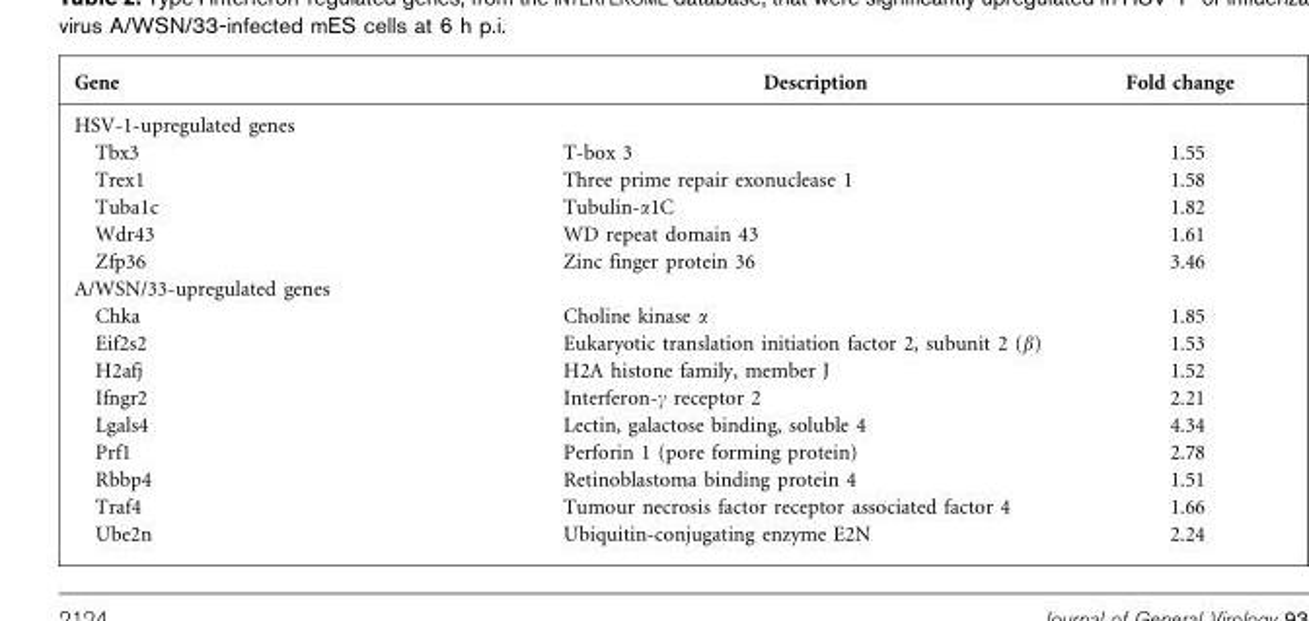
<table><thead><tr><td>Gene</td><td>Description</td><td>Fold change</td></tr></thead><tbody><tr><td colspan="3">HSV-1-upregulated genes</td></tr><tr><td>Tbx3</td><td>T-box 3</td><td>1.55</td></tr><tr><td>Trex1</td><td>Three prime repair exonuclease 1</td><td>1.58</td></tr><tr><td>Tuba1c</td><td>Tubulin-α1C</td><td>1.82</td></tr><tr><td>Wdr43</td><td>WD repeat domain 43</td><td>1.61</td></tr><tr><td>Zfp36</td><td>Zinc finger protein 36</td><td>3.46</td></tr><tr><td colspan="3">A/WSN/33-upregulated genes</td></tr><tr><td>Chka</td><td>Choline kinase α</td><td>1.85</td></tr><tr><td>Eif2s2</td><td>Eukaryotic translation initiation factor 2, subunit 2 (β)</td><td>1.53</td></tr><tr><td>H2afj</td><td>H2A histone family, member J</td><td>1.52</td></tr><tr><td>Ifngr2</td><td>Interferon-γ receptor 2</td><td>2.21</td></tr><tr><td>Lgals4</td><td>Lectin, galactose binding, soluble 4</td><td>4.34</td></tr><tr><td>Prf1</td><td>Perforin 1 (pore forming protein)</td><td>2.78</td></tr><tr><td>Rbbp4</td><td>Retinoblastoma binding protein 4</td><td>1.51</td></tr><tr><td>Traf4</td><td>Tumour necrosis factor receptor associated factor 4</td><td>1.66</td></tr><tr><td>Ube2n</td><td>Ubiquitin-conjugating enzyme E2N</td><td>2.24</td></tr></tbody></table>